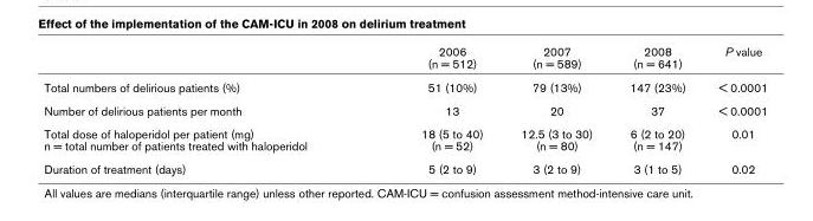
<table><thead><tr><td></td><td>2006 (n = 512)</td><td>2007 (n = 589)</td><td>2008 (n = 641)</td><td>P value</td></tr></thead><tbody><tr><td>Total numbers of delirious patients (%)</td><td>51 (10%)</td><td>79 (13%)</td><td>147 (23%)</td><td>&lt; 0.0001</td></tr><tr><td>Number of delirious patients per month</td><td>13</td><td>20</td><td>37</td><td>&lt; 0.0001</td></tr><tr><td>Total dose of haloperidol per patient (mg) n = total number of patients treated with haloperidol</td><td>18 (5 to 40) (n = 52)</td><td>12.5 (3 to 30) (n = 80)</td><td>6 (2 to 20) (n = 147)</td><td>0.01</td></tr><tr><td>Duration of treatment (days)</td><td>5 (2 to 9)</td><td>3 (2 to 9)</td><td>3 (1 to 5)</td><td>0.02</td></tr></tbody></table>